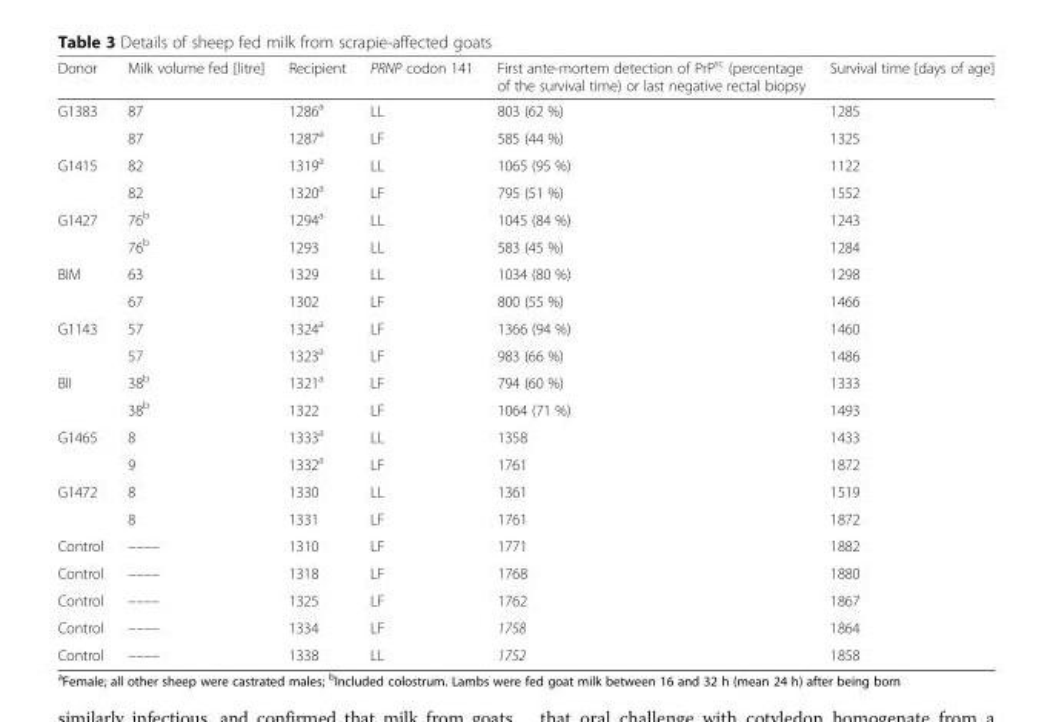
<table><thead><tr><td>Donor</td><td>Milk volume fed [litre]</td><td>Recipient</td><td>PRNP codon 141</td><td>First ante-mortem detection of PrP<sup>sc</sup> (percentage of the survival time) or last negative rectal biopsy</td><td>Survival time [days of age]</td></tr></thead><tbody><tr><td rowspan="2">G1383</td><td>87</td><td>1286<sup>a</sup></td><td>LL</td><td>803 (62 %)</td><td>1285</td></tr><tr><td>87</td><td>1287<sup>a</sup></td><td>LF</td><td>585 (44 %)</td><td>1325</td></tr><tr><td rowspan="2">G1415</td><td>82</td><td>1319<sup>a</sup></td><td>LL</td><td>1065 (95 %)</td><td>1122</td></tr><tr><td>82</td><td>1320<sup>a</sup></td><td>LF</td><td>795 (51 %)</td><td>1552</td></tr><tr><td rowspan="2">G1427</td><td>76<sup>b</sup></td><td>1294<sup>a</sup></td><td>LL</td><td>1045 (84 %)</td><td>1243</td></tr><tr><td>76<sup>b</sup></td><td>1293</td><td>LL</td><td>583 (45 %)</td><td>1284</td></tr><tr><td rowspan="2">BIM</td><td>63</td><td>1329</td><td>LL</td><td>1034 (80 %)</td><td>1298</td></tr><tr><td>67</td><td>1302</td><td>LF</td><td>800 (55 %)</td><td>1466</td></tr><tr><td rowspan="2">G1143</td><td>57</td><td>1324<sup>a</sup></td><td>LF</td><td>1366 (94 %)</td><td>1460</td></tr><tr><td>57</td><td>1323<sup>a</sup></td><td>LF</td><td>983 (66 %)</td><td>1486</td></tr><tr><td rowspan="2">BII</td><td>38<sup>b</sup></td><td>1321<sup>a</sup></td><td>LF</td><td>794 (60 %)</td><td>1333</td></tr><tr><td>38<sup>b</sup></td><td>1322</td><td>LF</td><td>1064 (71 %)</td><td>1493</td></tr><tr><td rowspan="2">G1465</td><td>8</td><td>1333<sup>a</sup></td><td>LL</td><td>1358</td><td>1433</td></tr><tr><td>9</td><td>1332<sup>a</sup></td><td>LF</td><td>1761</td><td>1872</td></tr><tr><td rowspan="2">G1472</td><td>8</td><td>1330</td><td>LL</td><td>1361</td><td>1519</td></tr><tr><td>8</td><td>1331</td><td>LF</td><td>1761</td><td>1872</td></tr><tr><td>Control</td><td>––––</td><td>1310</td><td>LF</td><td>1771</td><td>1882</td></tr><tr><td>Control</td><td>––––</td><td>1318</td><td>LF</td><td>1768</td><td>1880</td></tr><tr><td>Control</td><td>––––</td><td>1325</td><td>LF</td><td>1762</td><td>1867</td></tr><tr><td>Control</td><td>––––</td><td>1334</td><td>LF</td><td>1758</td><td>1864</td></tr><tr><td>Control</td><td>––––</td><td>1338</td><td>LL</td><td>1752</td><td>1858</td></tr></tbody></table>